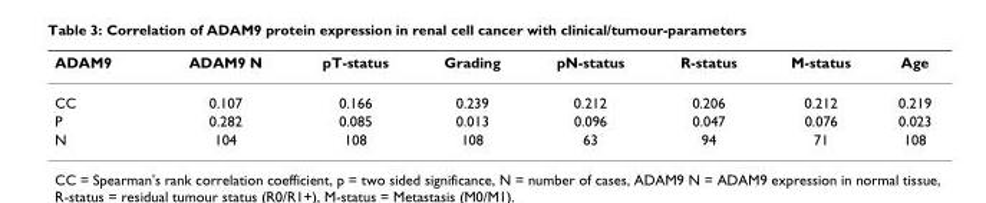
<table><thead><tr><td>ADAM9</td><td>ADAM9 N</td><td>pT-status</td><td>Grading</td><td>pN-status</td><td>R-status</td><td>M-status</td><td>Age</td></tr></thead><tbody><tr><td>CC</td><td>0.107</td><td>0.166</td><td>0.239</td><td>0.212</td><td>0.206</td><td>0.212</td><td>0.219</td></tr><tr><td>P</td><td>0.282</td><td>0.085</td><td>0.013</td><td>0.096</td><td>0.047</td><td>0.076</td><td>0.023</td></tr><tr><td>N</td><td>104</td><td>108</td><td>108</td><td>63</td><td>94</td><td>71</td><td>108</td></tr></tbody></table>